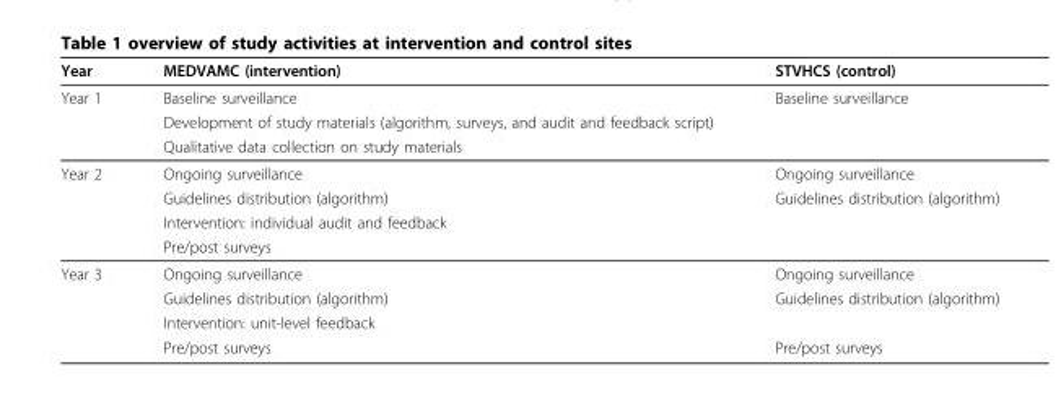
<table><thead><tr><td>Year</td><td>MEDVAMC (intervention)</td><td>STVHCS (control)</td></tr></thead><tbody><tr><td rowspan="3">Year 1</td><td>Baseline surveillance</td><td>Baseline surveillance</td></tr><tr><td>Development of study materials (algorithm, surveys, and audit and feedback script)</td><td></td></tr><tr><td>Qualitative data collection on study materials</td><td></td></tr><tr><td rowspan="4">Year 2</td><td>Ongoing surveillance</td><td>Ongoing surveillance</td></tr><tr><td>Guidelines distribution (algorithm)</td><td>Guidelines distribution (algorithm)</td></tr><tr><td>Intervention: individual audit and feedback</td><td></td></tr><tr><td>Pre/post surveys</td><td></td></tr><tr><td rowspan="4">Year 3</td><td>Ongoing surveillance</td><td>Ongoing surveillance</td></tr><tr><td>Guidelines distribution (algorithm)</td><td>Guidelines distribution (algorithm)</td></tr><tr><td>Intervention: unit-level feedback</td><td></td></tr><tr><td>Pre/post surveys</td><td>Pre/post surveys</td></tr></tbody></table>